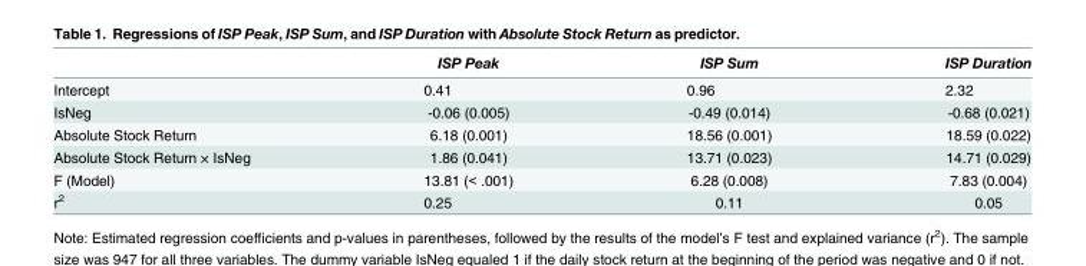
<table><thead><tr><td></td><td>ISP Peak</td><td>ISP Sum</td><td>ISP Duration</td></tr></thead><tbody><tr><td>Intercept</td><td>0.41</td><td>0.96</td><td>2.32</td></tr><tr><td>IsNeg</td><td>-0.06 (0.005)</td><td>-0.49 (0.014)</td><td>-0.68 (0.021)</td></tr><tr><td>Absolute Stock Return</td><td>6.18 (0.001)</td><td>18.56 (0.001)</td><td>18.59 (0.022)</td></tr><tr><td>Absolute Stock Return × IsNeg</td><td>1.86 (0.041)</td><td>13.71 (0.023)</td><td>14.71 (0.029)</td></tr><tr><td>F (Model)</td><td>13.81 (&lt; .001)</td><td>6.28 (0.008)</td><td>7.83 (0.004)</td></tr><tr><td>r<sup>2</sup></td><td>0.25</td><td>0.11</td><td>0.05</td></tr></tbody></table>